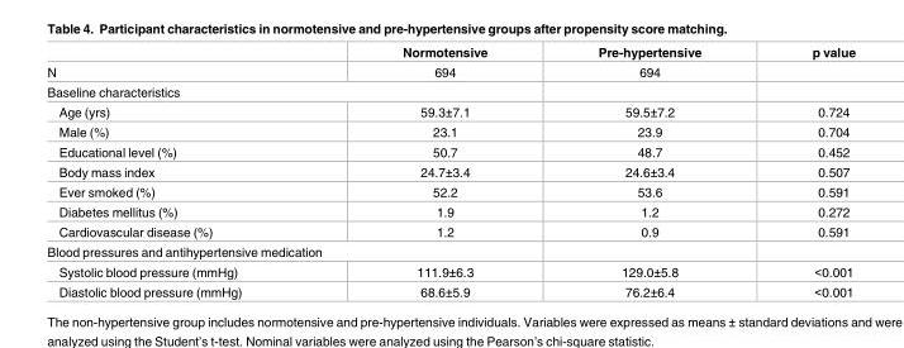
<table><thead><tr><td></td><td>Normotensive</td><td>Pre-hypertensive</td><td>p value</td></tr></thead><tbody><tr><td>N</td><td>694</td><td>694</td><td></td></tr><tr><td colspan="4">Baseline characteristics</td></tr><tr><td>Age (yrs)</td><td>59.3±7.1</td><td>59.5±7.2</td><td>0.724</td></tr><tr><td>Male (%)</td><td>23.1</td><td>23.9</td><td>0.704</td></tr><tr><td>Educational level (%)</td><td>50.7</td><td>48.7</td><td>0.452</td></tr><tr><td>Body mass index</td><td>24.7±3.4</td><td>24.6±3.4</td><td>0.507</td></tr><tr><td>Ever smoked (%)</td><td>52.2</td><td>53.6</td><td>0.591</td></tr><tr><td>Diabetes mellitus (%)</td><td>1.9</td><td>1.2</td><td>0.272</td></tr><tr><td>Cardiovascular disease (%)</td><td>1.2</td><td>0.9</td><td>0.591</td></tr><tr><td colspan="4">Blood pressures and antihypertensive medication</td></tr><tr><td>Systolic blood pressure (mmHg)</td><td>111.9±6.3</td><td>129.0±5.8</td><td>&lt;0.001</td></tr><tr><td>Diastolic blood pressure (mmHg)</td><td>68.6±5.9</td><td>76.2±6.4</td><td>&lt;0.001</td></tr></tbody></table>